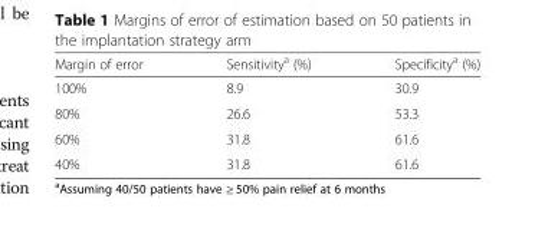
<table><thead><tr><td>Margin of error</td><td>Sensitivity<sup>a</sup> (%)</td><td>Specificity<sup>a</sup> (%)</td></tr></thead><tbody><tr><td>100%</td><td>8.9</td><td>30.9</td></tr><tr><td>80%</td><td>26.6</td><td>53.3</td></tr><tr><td>60%</td><td>31.8</td><td>61.6</td></tr><tr><td>40%</td><td>31.8</td><td>61.6</td></tr></tbody></table>